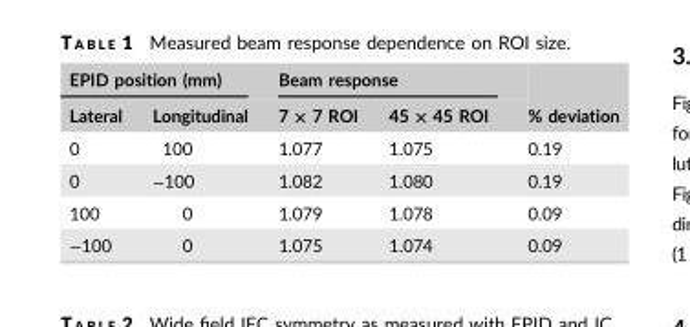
<table><thead><tr><td colspan="2">EPID position (mm)</td><td colspan="2">Beam response</td><td rowspan="2">% deviation</td></tr><tr><td>Lateral</td><td>Longitudinal</td><td>7 × 7 ROI</td><td>45 × 45 ROI</td></tr></thead><tbody><tr><td>0</td><td>100</td><td>1.077</td><td>1.075</td><td>0.19</td></tr><tr><td>0</td><td>−100</td><td>1.082</td><td>1.080</td><td>0.19</td></tr><tr><td>100</td><td>0</td><td>1.079</td><td>1.078</td><td>0.09</td></tr><tr><td>−100</td><td>0</td><td>1.075</td><td>1.074</td><td>0.09</td></tr></tbody></table>